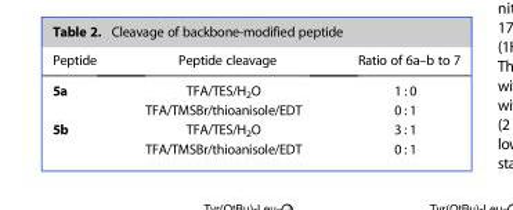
<table><thead><tr><td>Peptide</td><td>Peptide cleavage</td><td>Ratio of 6a–b to 7</td></tr></thead><tbody><tr><td rowspan="2">5a</td><td>TFA/TES/H<sub>2</sub>O</td><td>1 : 0</td></tr><tr><td>TFA/TMSBr/thioanisole/EDT</td><td>0 : 1</td></tr><tr><td rowspan="2">5b</td><td>TFA/TES/H<sub>2</sub>O</td><td>3 : 1</td></tr><tr><td>TFA/TMSBr/thioanisole/EDT</td><td>0 : 1</td></tr></tbody></table>